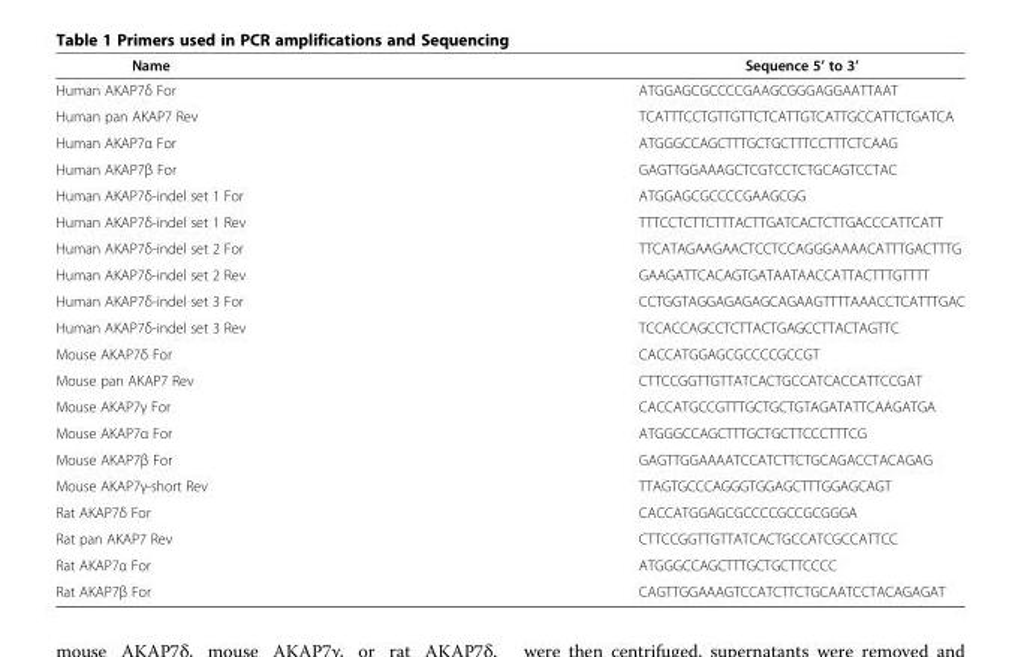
<table><thead><tr><td>Name</td><td>Sequence 5’ to 3’</td></tr></thead><tbody><tr><td>Human AKAP7δ For</td><td>ATGGAGCGCCCCGAAGCGGGAGGAATTAAT</td></tr><tr><td>Human pan AKAP7 Rev</td><td>TCATTTCCTGTTGTTCTCATTGTCATTGCCATTCTGATCA</td></tr><tr><td>Human AKAP7α For</td><td>ATGGGCCAGCTTTGCTGCTTTCCTTTCTCAAG</td></tr><tr><td>Human AKAP7β For</td><td>GAGTTGGAAAGCTCGTCCTCTGCAGTCCTAC</td></tr><tr><td>Human AKAP7δ-indel set 1 For</td><td>ATGGAGCGCCCCGAAGCGG</td></tr><tr><td>Human AKAP7δ-indel set 1 Rev</td><td>TTTCCTCTTCTTTACTTGATCACTCTTGACCCATTCATT</td></tr><tr><td>Human AKAP7δ-indel set 2 For</td><td>TTCATAGAAGAACTCCTCCAGGGAAAACATTTGACTTTG</td></tr><tr><td>Human AKAP7δ-indel set 2 Rev</td><td>GAAGATTCACAGTGATAATAACCATTACTTTGTTTT</td></tr><tr><td>Human AKAP7δ-indel set 3 For</td><td>CCTGGTAGGAGAGAGCAGAAGTTTTAAACCTCATTTGAC</td></tr><tr><td>Human AKAP7δ-indel set 3 Rev</td><td>TCCACCAGCCTCTTACTGAGCCTTACTAGTTC</td></tr><tr><td>Mouse AKAP7δ For</td><td>CACCATGGAGCGCCCCGCCGT</td></tr><tr><td>Mouse pan AKAP7 Rev</td><td>CTTCCGGTTGTTATCACTGCCATCACCATTCCGAT</td></tr><tr><td>Mouse AKAP7γ For</td><td>CACCATGCCGTTTGCTGCTGTAGATATTCAAGATGA</td></tr><tr><td>Mouse AKAP7α For</td><td>ATGGGCCAGCTTTGCTGCTTCCCTTTCG</td></tr><tr><td>Mouse AKAP7β For</td><td>GAGTTGGAAAATCCATCTTCTGCAGACCTACAGAG</td></tr><tr><td>Mouse AKAP7γ-short Rev</td><td>TTAGTGCCCAGGGTGGAGCTTTGGAGCAGT</td></tr><tr><td>Rat AKAP7δ For</td><td>CACCATGGAGCGCCCCGCCGCGGGA</td></tr><tr><td>Rat pan AKAP7 Rev</td><td>CTTCCGGTTGTTATCACTGCCATCGCCATTCC</td></tr><tr><td>Rat AKAP7α For</td><td>ATGGGCCAGCTTTGCTGCTTCCCC</td></tr><tr><td>Rat AKAP7β For</td><td>CAGTTGGAAAGTCCATCTTCTGCAATCCTACAGAGAT</td></tr></tbody></table>